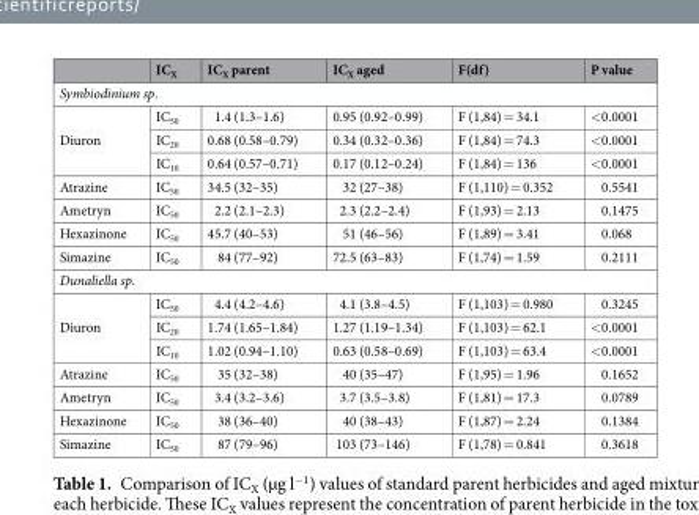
<table><thead><tr><td></td><td>IC<sub>X</sub></td><td>IC<sub>X</sub> parent</td><td>IC<sub>X</sub> aged</td><td>F(df)</td><td>P value</td></tr></thead><tbody><tr><td colspan="6">Symbiodinium sp.</td></tr><tr><td rowspan="3">Diuron</td><td>IC<sub>50</sub></td><td>1.4 (1.3–1.6)</td><td>0.95 (0.92–0.99)</td><td>F (1,84) = 34.1</td><td>&lt;0.0001</td></tr><tr><td>IC<sub>20</sub></td><td>0.68 (0.58–0.79)</td><td>0.34 (0.32–0.36)</td><td>F (1,84) = 74.3</td><td>&lt;0.0001</td></tr><tr><td>IC<sub>10</sub></td><td>0.64 (0.57–0.71)</td><td>0.17 (0.12–0.24)</td><td>F (1,84) = 136</td><td>&lt;0.0001</td></tr><tr><td>Atrazine</td><td>IC<sub>50</sub></td><td>34.5 (32–35)</td><td>32 (27–38)</td><td>F (1,110) = 0.352</td><td>0.5541</td></tr><tr><td>Ametryn</td><td>IC<sub>50</sub></td><td>2.2 (2.1–2.3)</td><td>2.3 (2.2–2.4)</td><td>F (1,93) = 2.13</td><td>0.1475</td></tr><tr><td>Hexazinone</td><td>IC<sub>50</sub></td><td>45.7 (40–53)</td><td>51 (46–56)</td><td>F (1,89) = 3.41</td><td>0.068</td></tr><tr><td>Simazine</td><td>IC<sub>50</sub></td><td>84 (77–92)</td><td>72.5 (63–83)</td><td>F (1,74) = 1.59</td><td>0.2111</td></tr><tr><td colspan="6">Dunaliella sp.</td></tr><tr><td rowspan="3">Diuron</td><td>IC<sub>50</sub></td><td>4.4 (4.2–4.6)</td><td>4.1 (3.8–4.5)</td><td>F (1,103) = 0.980</td><td>0.3245</td></tr><tr><td>IC<sub>20</sub></td><td>1.74 (1.65–1.84)</td><td>1.27 (1.19–1.34)</td><td>F (1,103) = 62.1</td><td>&lt;0.0001</td></tr><tr><td>IC<sub>10</sub></td><td>1.02 (0.94–1.10)</td><td>0.63 (0.58–0.69)</td><td>F (1,103) = 63.4</td><td>&lt;0.0001</td></tr><tr><td>Atrazine</td><td>IC<sub>50</sub></td><td>35 (32–38)</td><td>40 (35–47)</td><td>F (1,95) = 1.96</td><td>0.1652</td></tr><tr><td>Ametryn</td><td>IC<sub>50</sub></td><td>3.4 (3.2–3.6)</td><td>3.7 (3.5–3.8)</td><td>F (1,81) = 17.3</td><td>0.0789</td></tr><tr><td>Hexazinone</td><td>IC<sub>50</sub></td><td>38 (36–40)</td><td>40 (38–43)</td><td>F (1,87) = 2.24</td><td>0.1384</td></tr><tr><td>Simazine</td><td>IC<sub>50</sub></td><td>87 (79–96)</td><td>103 (73–146)</td><td>F (1,78) = 0.841</td><td>0.3618</td></tr></tbody></table>